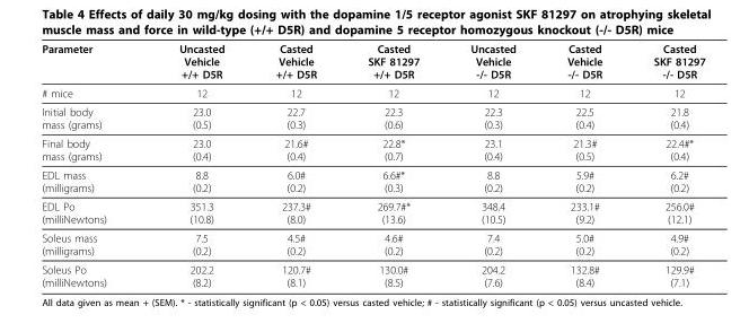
<table><thead><tr><td>Parameter</td><td>Uncasted Vehicle +/+ D5R</td><td>Casted Vehicle +/+ D5R</td><td>Casted SKF 81297 +/+ D5R</td><td>Uncasted Vehicle -/- D5R</td><td>Casted Vehicle -/- D5R</td><td>Casted SKF 81297 -/- D5R</td></tr></thead><tbody><tr><td># mice</td><td>12</td><td>12</td><td>12</td><td>12</td><td>12</td><td>12</td></tr><tr><td>Initial body mass (grams)</td><td>23.0 (0.5)</td><td>22.7 (0.3)</td><td>22.3 (0.6)</td><td>22.3 (0.3)</td><td>22.5 (0.4)</td><td>21.8 (0.4)</td></tr><tr><td>Final body mass (grams)</td><td>23.0 (0.4)</td><td>21.6# (0.4)</td><td>22.8* (0.7)</td><td>23.1 (0.4)</td><td>21.3# (0.5)</td><td>22.4#* (0.4)</td></tr><tr><td>EDL mass (milligrams)</td><td>8.8 (0.2)</td><td>6.0# (0.2)</td><td>6.6#* (0.3)</td><td>8.8 (0.2)</td><td>5.9# (0.2)</td><td>6.2# (0.2)</td></tr><tr><td>EDL Po (milliNewtons)</td><td>351.3 (10.8)</td><td>237.3# (8.0)</td><td>269.7#* (13.6)</td><td>348.4 (10.5)</td><td>233.1# (9.2)</td><td>256.0# (12.1)</td></tr><tr><td>Soleus mass (milligrams)</td><td>7.5 (0.2)</td><td>4.5# (0.2)</td><td>4.6# (0.2)</td><td>7.4 (0.2)</td><td>5.0# (0.2)</td><td>4.9# (0.2)</td></tr><tr><td>Soleus Po (milliNewtons)</td><td>202.2 (8.2)</td><td>120.7# (8.1)</td><td>130.0# (8.5)</td><td>204.2 (7.6)</td><td>132.8# (8.4)</td><td>129.9# (7.1)</td></tr></tbody></table>